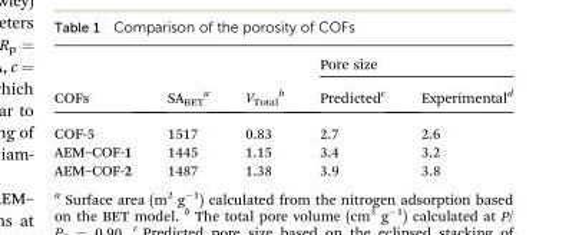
<table><thead><tr><td rowspan="2">COFs</td><td rowspan="2">SA<sub>BET</sub> <sup>a</sup></td><td rowspan="2">V<sub>Total</sub> <sup>b</sup></td><td colspan="2">Pore size</td></tr><tr><td>Predicted<sup>c</sup></td><td>Experimental<sup>d</sup></td></tr></thead><tbody><tr><td>COF-5</td><td>1517</td><td>0.83</td><td>2.7</td><td>2.6</td></tr><tr><td>AEM–COF-1</td><td>1445</td><td>1.15</td><td>3.4</td><td>3.2</td></tr><tr><td>AEM–COF-2</td><td>1487</td><td>1.38</td><td>3.9</td><td>3.8</td></tr></tbody></table>